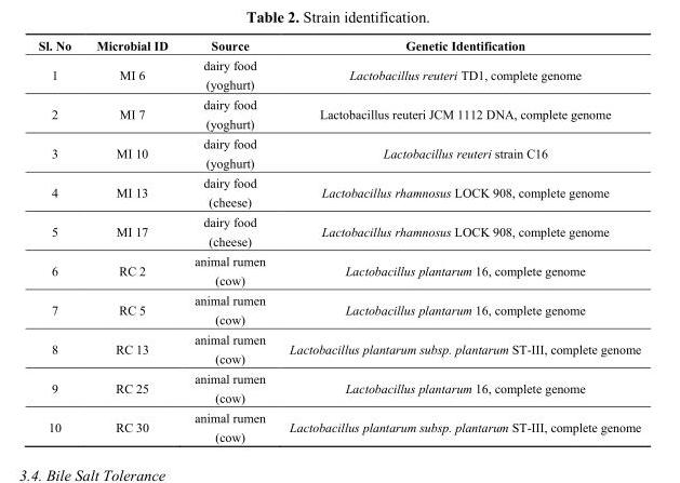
<table><thead><tr><td>Sl. No</td><td>Microbial ID</td><td>Source</td><td>Genetic Identification</td></tr></thead><tbody><tr><td>1</td><td>MI 6</td><td>dairy food (yoghurt)</td><td>Lactobacillus reuteri TD1, complete genome</td></tr><tr><td>2</td><td>MI 7</td><td>dairy food (yoghurt)</td><td>Lactobacillus reuteri JCM 1112 DNA, complete genome</td></tr><tr><td>3</td><td>MI 10</td><td>dairy food (yoghurt)</td><td>Lactobacillus reuteri strain C16</td></tr><tr><td>4</td><td>MI 13</td><td>dairy food (cheese)</td><td>Lactobacillus rhamnosus LOCK 908, complete genome</td></tr><tr><td>5</td><td>MI 17</td><td>dairy food (cheese)</td><td>Lactobacillus rhamnosus LOCK 908, complete genome</td></tr><tr><td>6</td><td>RC 2</td><td>animal rumen (cow)</td><td>Lactobacillus plantarum 16, complete genome</td></tr><tr><td>7</td><td>RC 5</td><td>animal rumen (cow)</td><td>Lactobacillus plantarum 16, complete genome</td></tr><tr><td>8</td><td>RC 13</td><td>animal rumen (cow)</td><td>Lactobacillus plantarum subsp. plantarum ST-III, complete genome</td></tr><tr><td>9</td><td>RC 25</td><td>animal rumen (cow)</td><td>Lactobacillus plantarum 16, complete genome</td></tr><tr><td>10</td><td>RC 30</td><td>animal rumen (cow)</td><td>Lactobacillus plantarum subsp. plantarum ST-III, complete genome</td></tr></tbody></table>